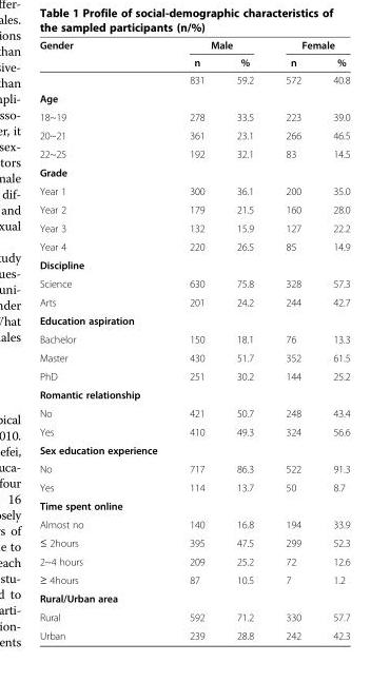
<table><thead><tr><td rowspan="2">Gender</td><td colspan="2">Male</td><td colspan="2">Female</td></tr><tr><td>n</td><td>%</td><td>n</td><td>%</td></tr></thead><tbody><tr><td></td><td>831</td><td>59.2</td><td>572</td><td>40.8</td></tr><tr><td colspan="5">Age</td></tr><tr><td>18~19</td><td>278</td><td>33.5</td><td>223</td><td>39.0</td></tr><tr><td>20~21</td><td>361</td><td>23.1</td><td>266</td><td>46.5</td></tr><tr><td>22~25</td><td>192</td><td>32.1</td><td>83</td><td>14.5</td></tr><tr><td colspan="5">Grade</td></tr><tr><td>Year 1</td><td>300</td><td>36.1</td><td>200</td><td>35.0</td></tr><tr><td>Year 2</td><td>179</td><td>21.5</td><td>160</td><td>28.0</td></tr><tr><td>Year 3</td><td>132</td><td>15.9</td><td>127</td><td>22.2</td></tr><tr><td>Year 4</td><td>220</td><td>26.5</td><td>85</td><td>14.9</td></tr><tr><td colspan="5">Discipline</td></tr><tr><td>Science</td><td>630</td><td>75.8</td><td>328</td><td>57.3</td></tr><tr><td>Arts</td><td>201</td><td>24.2</td><td>244</td><td>42.7</td></tr><tr><td colspan="5">Education aspiration</td></tr><tr><td>Bachelor</td><td>150</td><td>18.1</td><td>76</td><td>13.3</td></tr><tr><td>Master</td><td>430</td><td>51.7</td><td>352</td><td>61.5</td></tr><tr><td>PhD</td><td>251</td><td>30.2</td><td>144</td><td>25.2</td></tr><tr><td colspan="5">Romantic relationship</td></tr><tr><td>No</td><td>421</td><td>50.7</td><td>248</td><td>43.4</td></tr><tr><td>Yes</td><td>410</td><td>49.3</td><td>324</td><td>56.6</td></tr><tr><td colspan="5">Sex education experience</td></tr><tr><td>No</td><td>717</td><td>86.3</td><td>522</td><td>91.3</td></tr><tr><td>Yes</td><td>114</td><td>13.7</td><td>50</td><td>8.7</td></tr><tr><td colspan="5">Time spent online</td></tr><tr><td>Almost no</td><td>140</td><td>16.8</td><td>194</td><td>33.9</td></tr><tr><td>≤ 2hours</td><td>395</td><td>47.5</td><td>299</td><td>52.3</td></tr><tr><td>2~4 hours</td><td>209</td><td>25.2</td><td>72</td><td>12.6</td></tr><tr><td>≥ 4hours</td><td>87</td><td>10.5</td><td>7</td><td>1.2</td></tr><tr><td colspan="5">Rural/Urban area</td></tr><tr><td>Rural</td><td>592</td><td>71.2</td><td>330</td><td>57.7</td></tr><tr><td>Urban</td><td>239</td><td>28.8</td><td>242</td><td>42.3</td></tr></tbody></table>